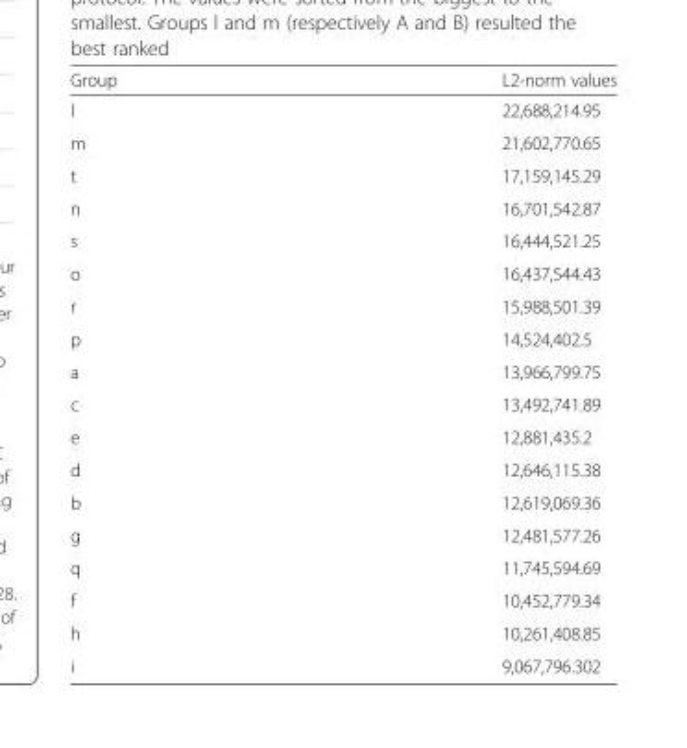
<table><thead><tr><td>Group</td><td>L2-norm values</td></tr></thead><tbody><tr><td>l</td><td>22,688,214.95</td></tr><tr><td>m</td><td>21,602,770.65</td></tr><tr><td>t</td><td>17,159,145.29</td></tr><tr><td>n</td><td>16,701,542.87</td></tr><tr><td>s</td><td>16,444,521.25</td></tr><tr><td>o</td><td>16,437,544.43</td></tr><tr><td>r</td><td>15,988,501.39</td></tr><tr><td>p</td><td>14,524,402.5</td></tr><tr><td>a</td><td>13,966,799.75</td></tr><tr><td>c</td><td>13,492,741.89</td></tr><tr><td>e</td><td>12,881,435.2</td></tr><tr><td>d</td><td>12,646,115.38</td></tr><tr><td>b</td><td>12,619,069.36</td></tr><tr><td>g</td><td>12,481,577.26</td></tr><tr><td>q</td><td>11,745,594.69</td></tr><tr><td>f</td><td>10,452,779.34</td></tr><tr><td>h</td><td>10,261,408.85</td></tr><tr><td>i</td><td>9,067,796.302</td></tr></tbody></table>